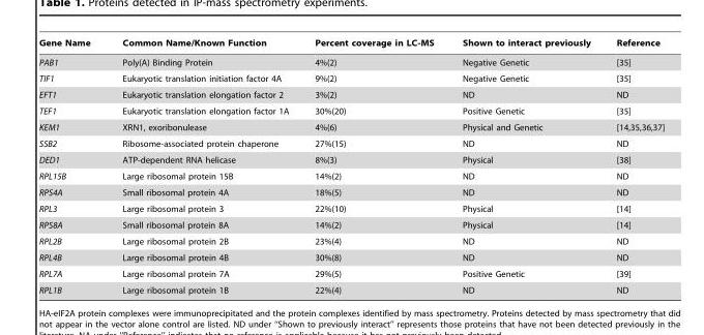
<table><thead><tr><td>Gene Name</td><td>Common Name/Known Function</td><td>Percent coverage in LC-MS</td><td>Shown to interact previously</td><td>Reference</td></tr></thead><tbody><tr><td>PAB1</td><td>Poly(A) Binding Protein</td><td>4%(2)</td><td>Negative Genetic</td><td>[35]</td></tr><tr><td>TIF1</td><td>Eukaryotic translation initiation factor 4A</td><td>9%(2)</td><td>Negative Genetic</td><td>[35]</td></tr><tr><td>EFT1</td><td>Eukaryotic translation elongation factor 2</td><td>3%(2)</td><td>ND</td><td>ND</td></tr><tr><td>TEF1</td><td>Eukaryotic translation elongation factor 1A</td><td>30%(20)</td><td>Positive Genetic</td><td>[35]</td></tr><tr><td>KEM1</td><td>XRN1, exoribonulease</td><td>4%(6)</td><td>Physical and Genetic</td><td>[14,35,36,37]</td></tr><tr><td>SSB2</td><td>Ribosome-associated protein chaperone</td><td>27%(15)</td><td>ND</td><td>ND</td></tr><tr><td>DED1</td><td>ATP-dependent RNA helicase</td><td>8%(3)</td><td>Physical</td><td>[38]</td></tr><tr><td>RPL15B</td><td>Large ribosomal protein 15B</td><td>14%(2)</td><td>ND</td><td>ND</td></tr><tr><td>RPS4A</td><td>Small ribosomal protein 4A</td><td>18%(5)</td><td>ND</td><td>ND</td></tr><tr><td>RPL3</td><td>Large ribosomal protein 3</td><td>22%(10)</td><td>Physical</td><td>[14]</td></tr><tr><td>RPS8A</td><td>Small ribosomal protein 8A</td><td>14%(2)</td><td>Physical</td><td>[14]</td></tr><tr><td>RPL2B</td><td>Large ribosomal protein 2B</td><td>23%(4)</td><td>ND</td><td>ND</td></tr><tr><td>RPL4B</td><td>Large ribosomal protein 4B</td><td>30%(8)</td><td>ND</td><td>ND</td></tr><tr><td>RPL7A</td><td>Large ribosomal protein 7A</td><td>29%(5)</td><td>Positive Genetic</td><td>[39]</td></tr><tr><td>RPL1B</td><td>Large ribosomal protein 1B</td><td>22%(4)</td><td>ND</td><td>ND</td></tr></tbody></table>